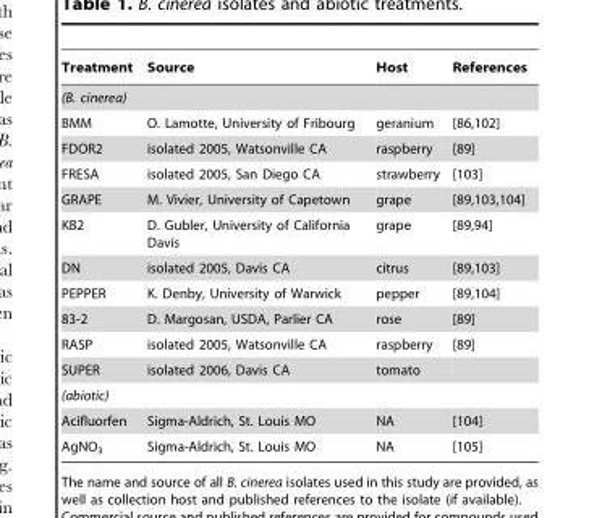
<table><thead><tr><td>Treatment</td><td>Source</td><td>Host</td><td>References</td></tr></thead><tbody><tr><td colspan="4">(B. cinerea)</td></tr><tr><td>BMM</td><td>O. Lamotte, University of Fribourg</td><td>geranium</td><td>[86,102]</td></tr><tr><td>FDOR2</td><td>isolated 2005, Watsonville CA</td><td>raspberry</td><td>[89]</td></tr><tr><td>FRESA</td><td>isolated 2005, San Diego CA</td><td>strawberry</td><td>[103]</td></tr><tr><td>GRAPE</td><td>M. Vivier, University of Capetown</td><td>grape</td><td>[89,103,104]</td></tr><tr><td>KB2</td><td>D. Gubler, University of California Davis</td><td>grape</td><td>[89,94]</td></tr><tr><td>DN</td><td>isolated 2005, Davis CA</td><td>citrus</td><td>[89,103]</td></tr><tr><td>PEPPER</td><td>K. Denby, University of Warwick</td><td>pepper</td><td>[89,104]</td></tr><tr><td>83-2</td><td>D. Margosan, USDA, Parlier CA</td><td>rose</td><td>[89]</td></tr><tr><td>RASP</td><td>isolated 2005, Watsonville CA</td><td>raspberry</td><td>[89]</td></tr><tr><td>SUPER</td><td>isolated 2006, Davis CA</td><td>tomato</td><td></td></tr><tr><td colspan="4">(abiotic)</td></tr><tr><td>Acifluorfen</td><td>Sigma-Aldrich, St. Louis MO</td><td>NA</td><td>[104]</td></tr><tr><td>AgNO<sub>3</sub></td><td>Sigma-Aldrich, St. Louis MO</td><td>NA</td><td>[105]</td></tr></tbody></table>